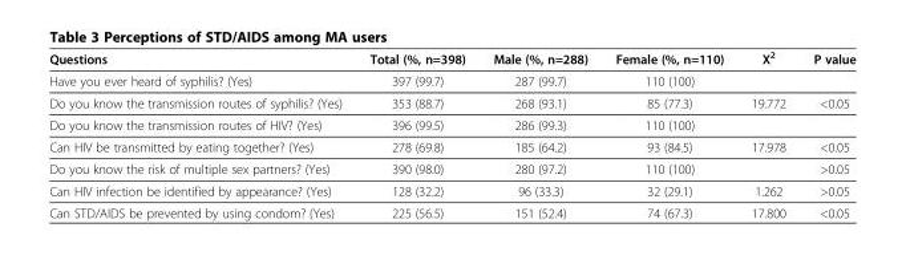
<table><thead><tr><td>Questions</td><td>Total (%, n=398)</td><td>Male (%, n=288)</td><td>Female (%, n=110)</td><td>X<sup>2</sup></td><td>P value</td></tr></thead><tbody><tr><td>Have you ever heard of syphilis? (Yes)</td><td>397 (99.7)</td><td>287 (99.7)</td><td>110 (100)</td><td></td><td></td></tr><tr><td>Do you know the transmission routes of syphilis? (Yes)</td><td>353 (88.7)</td><td>268 (93.1)</td><td>85 (77.3)</td><td>19.772</td><td>&lt;0.05</td></tr><tr><td>Do you know the transmission routes of HIV? (Yes)</td><td>396 (99.5)</td><td>286 (99.3)</td><td>110 (100)</td><td></td><td></td></tr><tr><td>Can HIV be transmitted by eating together? (Yes)</td><td>278 (69.8)</td><td>185 (64.2)</td><td>93 (84.5)</td><td>17.978</td><td>&lt;0.05</td></tr><tr><td>Do you know the risk of multiple sex partners? (Yes)</td><td>390 (98.0)</td><td>280 (97.2)</td><td>110 (100)</td><td></td><td>&gt;0.05</td></tr><tr><td>Can HIV infection be identified by appearance? (Yes)</td><td>128 (32.2)</td><td>96 (33.3)</td><td>32 (29.1)</td><td>1.262</td><td>&gt;0.05</td></tr><tr><td>Can STD/AIDS be prevented by using condom? (Yes)</td><td>225 (56.5)</td><td>151 (52.4)</td><td>74 (67.3)</td><td>17.800</td><td>&lt;0.05</td></tr></tbody></table>